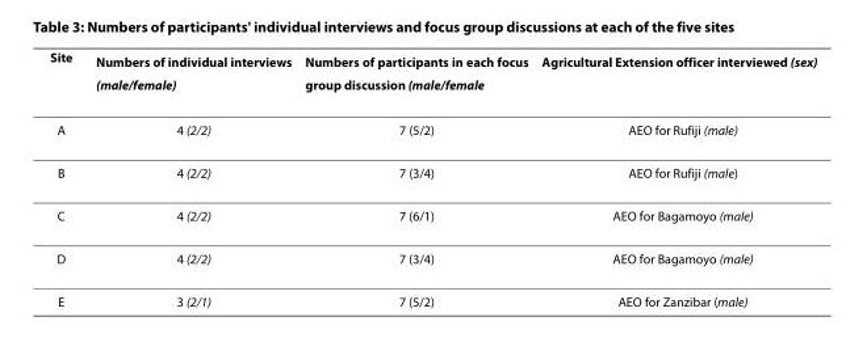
<table><thead><tr><td>Site</td><td>Numbers of individual interviews (male/female)</td><td>Numbers of participants in each focus group discussion (male/female</td><td>Agricultural Extension officer interviewed (sex)</td></tr></thead><tbody><tr><td>A</td><td>4 (2/2)</td><td>7 (5/2)</td><td>AEO for Rufiji (male)</td></tr><tr><td>B</td><td>4 (2/2)</td><td>7 (3/4)</td><td>AEO for Rufiji (male)</td></tr><tr><td>C</td><td>4 (2/2)</td><td>7 (6/1)</td><td>AEO for Bagamoyo (male)</td></tr><tr><td>D</td><td>4 (2/2)</td><td>7 (3/4)</td><td>AEO for Bagamoyo (male)</td></tr><tr><td>E</td><td>3 (2/1)</td><td>7 (5/2)</td><td>AEO for Zanzibar (male)</td></tr></tbody></table>